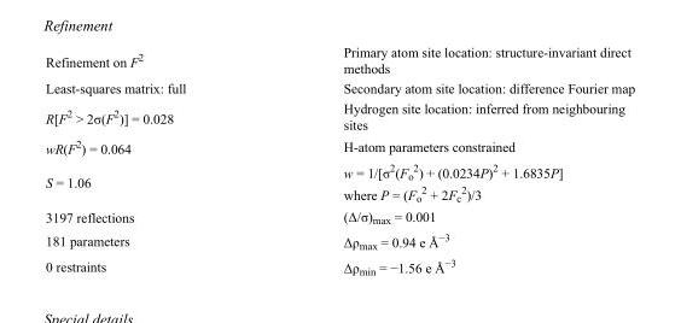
<table><tbody><tr><td>Refinement on F<sup>2</sup></td><td>Primary atom site location: structure-invariant direct methods</td></tr><tr><td>Least-squares matrix: full</td><td>Secondary atom site location: difference Fourier map</td></tr><tr><td>R[F<sup>2</sup> &gt; 2σ(F<sup>2</sup>)] = 0.028</td><td>Hydrogen site location: inferred from neighbouring sites</td></tr><tr><td>wR(F<sup>2</sup>) = 0.064</td><td>H-atom parameters constrained</td></tr><tr><td>S = 1.06</td><td>w = 1/[σ<sup>2</sup>(F<sub>o</sub> <sup>2</sup>) + (0.0234P)<sup>2</sup> + 1.6835P] where P = (F<sub>o</sub> <sup>2</sup> + 2F<sub>c</sub> <sup>2</sup>)/3</td></tr><tr><td>3197 reflections</td><td>(Δ/σ)<sub>max</sub> = 0.001</td></tr><tr><td>181 parameters</td><td>Δρ<sub>max</sub> = 0.94 e Å<sup>−3</sup></td></tr><tr><td>0 restraints</td><td>Δρ<sub>min</sub> = −1.56 e Å<sup>−3</sup></td></tr></tbody></table>